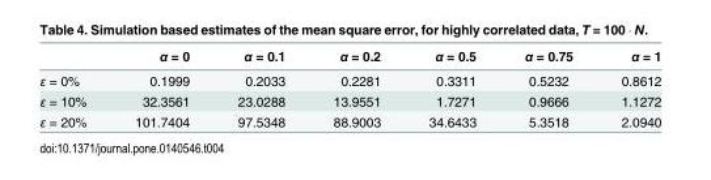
<table><thead><tr><td></td><td>α = 0</td><td>α = 0.1</td><td>α = 0.2</td><td>α = 0.5</td><td>α = 0.75</td><td>α = 1</td></tr></thead><tbody><tr><td>= 0%</td><td>0.1999</td><td>0.2033</td><td>0.2281</td><td>0.3311</td><td>0.5232</td><td>0.8612</td></tr><tr><td>= 10%</td><td>32.3561</td><td>23.0288</td><td>13.9551</td><td>1.7271</td><td>0.9666</td><td>1.1272</td></tr><tr><td>= 20%</td><td>101.7404</td><td>97.5348</td><td>88.9003</td><td>34.6433</td><td>5.3518</td><td>2.0940</td></tr></tbody></table>